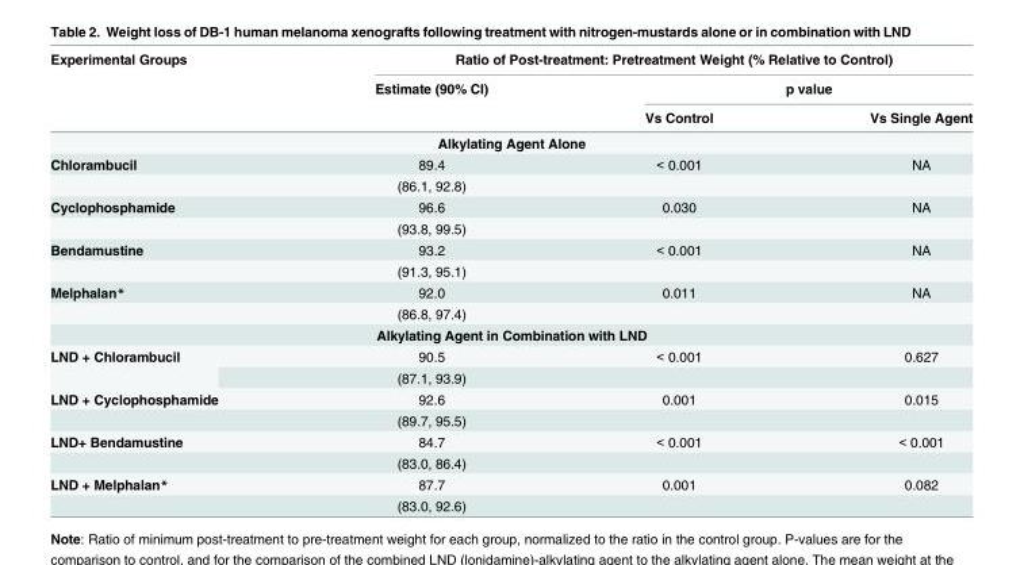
<table><thead><tr><td rowspan="3">Experimental Groups</td><td colspan="3">Ratio of Post-treatment: Pretreatment Weight (% Relative to Control)</td></tr><tr><td rowspan="2">Estimate (90% CI)</td><td colspan="2">p value</td></tr><tr><td>Vs Control</td><td>Vs Single Agent</td></tr></thead><tbody><tr><td colspan="4">Alkylating Agent Alone</td></tr><tr><td rowspan="2">Chlorambucil</td><td>89.4</td><td>&lt; 0.001</td><td>NA</td></tr><tr><td>(86.1, 92.8)</td><td></td><td></td></tr><tr><td rowspan="2">Cyclophosphamide</td><td>96.6</td><td>0.030</td><td>NA</td></tr><tr><td>(93.8, 99.5)</td><td></td><td></td></tr><tr><td rowspan="2">Bendamustine</td><td>93.2</td><td>&lt; 0.001</td><td>NA</td></tr><tr><td>(91.3, 95.1)</td><td></td><td></td></tr><tr><td rowspan="2">Melphalan*</td><td>92.0</td><td>0.011</td><td>NA</td></tr><tr><td>(86.8, 97.4)</td><td></td><td></td></tr><tr><td colspan="4">Alkylating Agent in Combination with LND</td></tr><tr><td rowspan="2">LND + Chlorambucil</td><td>90.5</td><td>&lt; 0.001</td><td>0.627</td></tr><tr><td>(87.1, 93.9)</td><td></td><td></td></tr><tr><td rowspan="2">LND + Cyclophosphamide</td><td>92.6</td><td>0.001</td><td>0.015</td></tr><tr><td>(89.7, 95.5)</td><td></td><td></td></tr><tr><td rowspan="2">LND+ Bendamustine</td><td>84.7</td><td>&lt; 0.001</td><td>&lt; 0.001</td></tr><tr><td>(83.0, 86.4)</td><td></td><td></td></tr><tr><td rowspan="2">LND + Melphalan*</td><td>87.7</td><td>0.001</td><td>0.082</td></tr><tr><td>(83.0, 92.6)</td><td></td><td></td></tr></tbody></table>